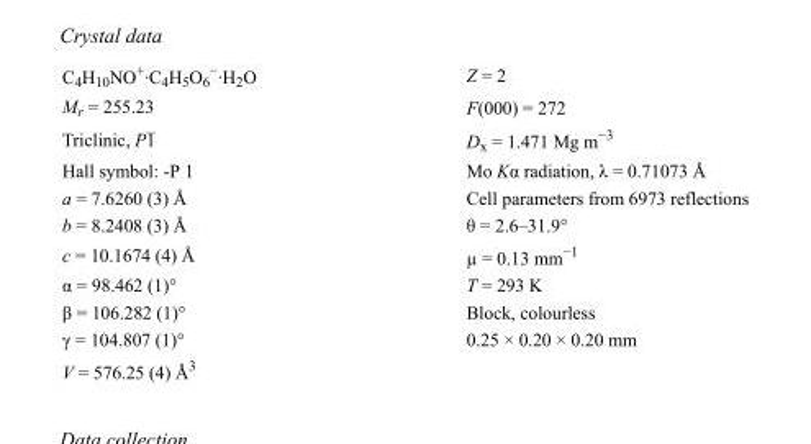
<table><tbody><tr><td>C<sub>4</sub>H<sub>10</sub>NO<sup>+</sup>·C<sub>4</sub>H<sub>5</sub>O<sub>6</sub> <sup>−</sup>·H<sub>2</sub>O</td><td>Z = 2</td></tr><tr><td>M<sub>r</sub> = 255.23</td><td>F(000) = 272</td></tr><tr><td>Triclinic, P1</td><td>D<sub>x</sub> = 1.471 Mg m<sup>−3</sup></td></tr><tr><td>Hall symbol: -P 1</td><td>Mo Kα radiation, λ = 0.71073 Å</td></tr><tr><td>a = 7.6260 (3) Å</td><td>Cell parameters from 6973 reflections</td></tr><tr><td>b = 8.2408 (3) Å</td><td>θ = 2.6–31.9°</td></tr><tr><td>c = 10.1674 (4) Å</td><td>µ = 0.13 mm<sup>−1</sup></td></tr><tr><td>α = 98.462 (1)°</td><td>T = 293 K</td></tr><tr><td>β = 106.282 (1)°</td><td>Block, colourless</td></tr><tr><td>γ = 104.807 (1)°</td><td>0.25 × 0.20 × 0.20 mm</td></tr><tr><td>V = 576.25 (4) Å<sup>3</sup></td><td></td></tr></tbody></table>